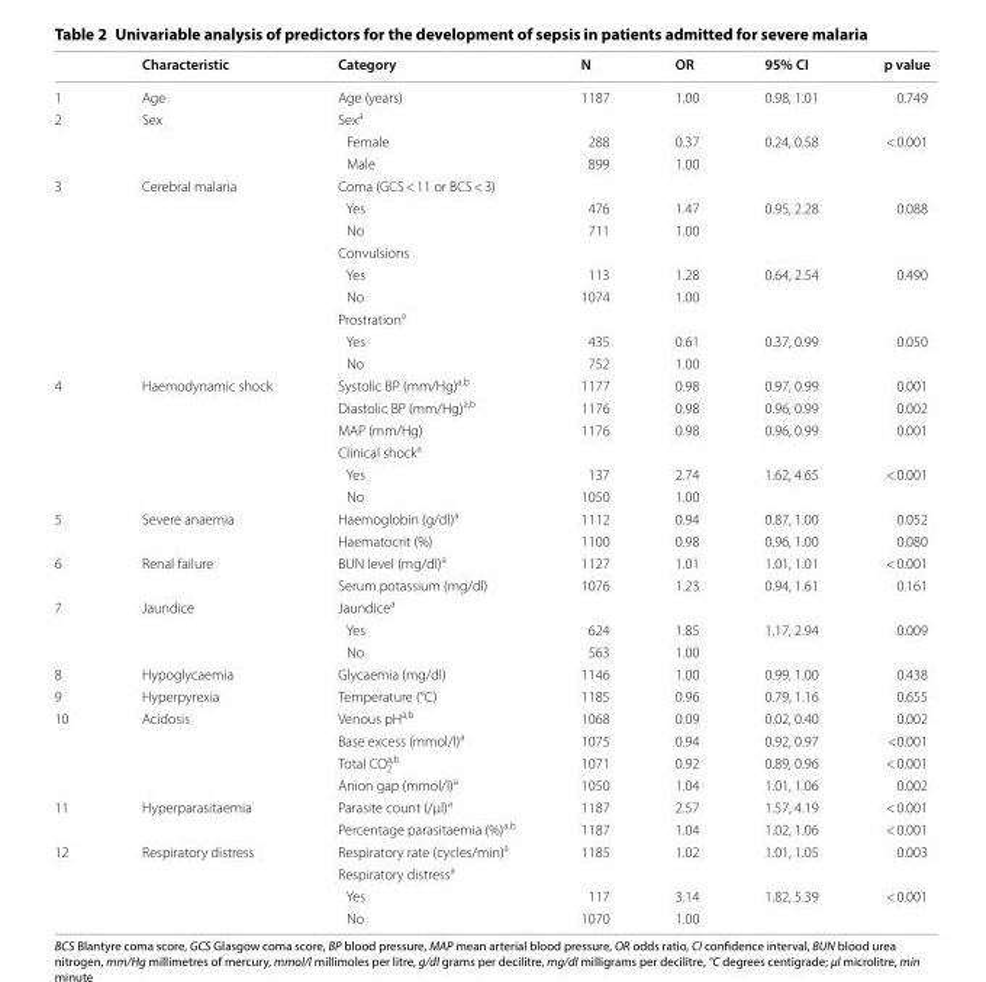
<table><thead><tr><td></td><td>Characteristic</td><td>Category</td><td>N</td><td>OR</td><td>95% CI</td><td>p value</td></tr></thead><tbody><tr><td>1</td><td>Age</td><td>Age (years)</td><td>1187</td><td>1.00</td><td>0.98, 1.01</td><td>0.749</td></tr><tr><td rowspan="3">2</td><td rowspan="3">Sex</td><td colspan="5">Sex<sup>a</sup></td></tr><tr><td>Female</td><td>288</td><td>0.37</td><td>0.24, 0.58</td><td>&lt; 0.001</td></tr><tr><td>Male</td><td>899</td><td>1.00</td><td></td><td></td></tr><tr><td rowspan="9">3</td><td rowspan="9">Cerebral malaria</td><td colspan="5">Coma (GCS &lt; 11 or BCS &lt; 3)</td></tr><tr><td>Yes</td><td>476</td><td>1.47</td><td>0.95, 2.28</td><td>0.088</td></tr><tr><td>No</td><td>711</td><td>1.00</td><td></td><td></td></tr><tr><td colspan="5">Convulsions</td></tr><tr><td>Yes</td><td>113</td><td>1.28</td><td>0.64, 2.54</td><td>0.490</td></tr><tr><td>No</td><td>1074</td><td>1.00</td><td></td><td></td></tr><tr><td colspan="5">Prostration<sup>a</sup></td></tr><tr><td>Yes</td><td>435</td><td>0.61</td><td>0.37, 0.99</td><td>0.050</td></tr><tr><td>No</td><td>752</td><td>1.00</td><td></td><td></td></tr><tr><td rowspan="6">4</td><td rowspan="6">Haemodynamic shock</td><td>Systolic BP (mm/Hg)<sup>a,b</sup></td><td>1177</td><td>0.98</td><td>0.97, 0.99</td><td>0.001</td></tr><tr><td>Diastolic BP (mm/Hg)<sup>a,b</sup></td><td>1176</td><td>0.98</td><td>0.96, 0.99</td><td>0.002</td></tr><tr><td>MAP (mm/Hg)</td><td>1176</td><td>0.98</td><td>0.96, 0.99</td><td>0.001</td></tr><tr><td colspan="5">Clinical shock<sup>a</sup></td></tr><tr><td>Yes</td><td>137</td><td>2.74</td><td>1.62, 4.65</td><td>&lt; 0.001</td></tr><tr><td>No</td><td>1050</td><td>1.00</td><td></td><td></td></tr><tr><td rowspan="2">5</td><td rowspan="2">Severe anaemia</td><td>Haemoglobin (g/dl)<sup>a</sup></td><td>1112</td><td>0.94</td><td>0.87, 1.00</td><td>0.052</td></tr><tr><td>Haematocrit (%)</td><td>1100</td><td>0.98</td><td>0.96, 1.00</td><td>0.080</td></tr><tr><td rowspan="2">6</td><td rowspan="2">Renal failure</td><td>BUN level (mg/dl)<sup>a</sup></td><td>1127</td><td>1.01</td><td>1.01, 1.01</td><td>&lt; 0.001</td></tr><tr><td>Serum potassium (mg/dl)</td><td>1076</td><td>1.23</td><td>0.94, 1.61</td><td>0.161</td></tr><tr><td rowspan="3">7</td><td rowspan="3">Jaundice</td><td colspan="5">Jaundice<sup>a</sup></td></tr><tr><td>Yes</td><td>624</td><td>1.85</td><td>1.17, 2.94</td><td>0.009</td></tr><tr><td>No</td><td>563</td><td>1.00</td><td></td><td></td></tr><tr><td>8</td><td>Hypoglycaemia</td><td>Glycaemia (mg/dl)</td><td>1146</td><td>1.00</td><td>0.99, 1.00</td><td>0.438</td></tr><tr><td>9</td><td>Hyperpyrexia</td><td>Temperature (°C)</td><td>1185</td><td>0.96</td><td>0.79, 1.16</td><td>0.655</td></tr><tr><td rowspan="4">10</td><td rowspan="4">Acidosis</td><td>Venous pH<sup>a,b</sup></td><td>1068</td><td>0.09</td><td>0.02, 0.40</td><td>0.002</td></tr><tr><td>Base excess (mmol/l)<sup>a</sup></td><td>1075</td><td>0.94</td><td>0.92, 0.97</td><td>&lt;0.001</td></tr><tr><td>Total CO<sub>2</sub> <sup>a,b</sup></td><td>1071</td><td>0.92</td><td>0.89, 0.96</td><td>&lt; 0.001</td></tr><tr><td>Anion gap (mmol/l)<sup>a</sup></td><td>1050</td><td>1.04</td><td>1.01, 1.06</td><td>0.002</td></tr><tr><td rowspan="2">11</td><td rowspan="2">Hyperparasitaemia</td><td>Parasite count (/μl)<sup>a</sup></td><td>1187</td><td>2.57</td><td>1.57, 4.19</td><td>&lt; 0.001</td></tr><tr><td>Percentage parasitaemia (%)<sup>a,b</sup></td><td>1187</td><td>1.04</td><td>1.02, 1.06</td><td>&lt; 0.001</td></tr><tr><td rowspan="4">12</td><td rowspan="4">Respiratory distress</td><td>Respiratory rate (cycles/min)<sup>a</sup></td><td>1185</td><td>1.02</td><td>1.01, 1.05</td><td>0.003</td></tr><tr><td colspan="5">Respiratory distress<sup>a</sup></td></tr><tr><td>Yes</td><td>117</td><td>3.14</td><td>1.82, 5.39</td><td>&lt; 0.001</td></tr><tr><td>No</td><td>1070</td><td>1.00</td><td></td><td></td></tr></tbody></table>